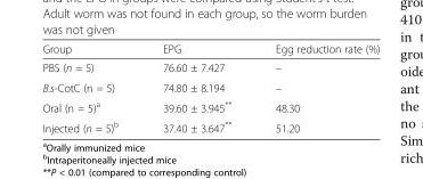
<table><thead><tr><td>Group</td><td>EPG</td><td>Egg reduction rate (%)</td></tr></thead><tbody><tr><td>PBS (n = 5)</td><td>76.60 ± 7.427</td><td>–</td></tr><tr><td>B.s-CotC (n = 5)</td><td>74.80 ± 8.194</td><td>–</td></tr><tr><td>Oral (n = 5)<sup>a</sup></td><td>39.60 ± 3.945**</td><td>48.30</td></tr><tr><td>Injected (n = 5)<sup>b</sup></td><td>37.40 ± 3.647**</td><td>51.20</td></tr></tbody></table>